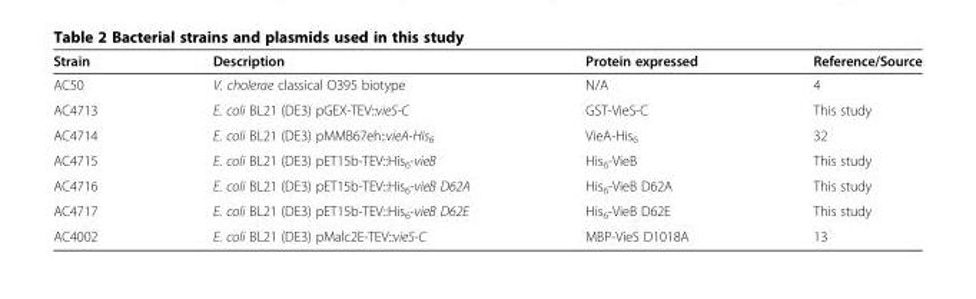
<table><thead><tr><td>Strain</td><td>Description</td><td>Protein expressed</td><td>Reference/Source</td></tr></thead><tbody><tr><td>AC50</td><td>V. cholerae classical O395 biotype</td><td>N/A</td><td>4</td></tr><tr><td>AC4713</td><td>E. coli BL21 (DE3) pGEX-TEV::vieS-C</td><td>GST-VieS-C</td><td>This study</td></tr><tr><td>AC4714</td><td>E. coli BL21 (DE3) pMMB67eh::vieA-His<sub>6</sub></td><td>VieA-His<sub>6</sub></td><td>32</td></tr><tr><td>AC4715</td><td>E. coli BL21 (DE3) pET15b-TEV::His<sub>6</sub>-vieB</td><td>His<sub>6</sub>-VieB</td><td>This study</td></tr><tr><td>AC4716</td><td>E. coli BL21 (DE3) pET15b-TEV::His<sub>6</sub>-vieB D62A</td><td>His<sub>6</sub>-VieB D62A</td><td>This study</td></tr><tr><td>AC4717</td><td>E. coli BL21 (DE3) pET15b-TEV::His<sub>6</sub>-vieB D62E</td><td>His<sub>6</sub>-VieB D62E</td><td>This study</td></tr><tr><td>AC4002</td><td>E. coli BL21 (DE3) pMalc2E-TEV::vieS-C</td><td>MBP-VieS D1018A</td><td>13</td></tr></tbody></table>